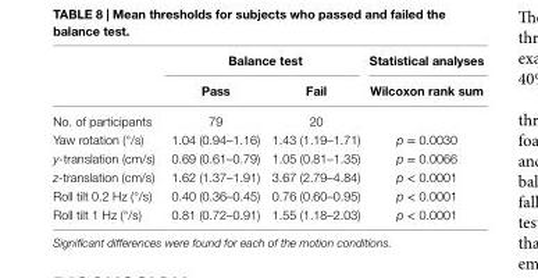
<table><thead><tr><td rowspan="2"></td><td colspan="2">Balance test</td><td rowspan="2">statistical analyses Wilcoxon rank sum</td></tr><tr><td>Pass</td><td>Fail</td></tr></thead><tbody><tr><td>No. of participants</td><td>79</td><td>20</td><td></td></tr><tr><td>Yaw rotation (°/s)</td><td>1.04 (0.94–1.16)</td><td>1.43 (1.19–1.71)</td><td>p = 0.0030</td></tr><tr><td>y-translation (cm/s)</td><td>0.69 (0.61–0.79)</td><td>1.05 (0.81–1.35)</td><td>p = 0.0066</td></tr><tr><td>z-translation (cm/s)</td><td>1.62 (1.37–1.91)</td><td>3.67 (2.79–4.84)</td><td>p &lt; 0.0001</td></tr><tr><td>Roll tilt 0.2 Hz (°/s)</td><td>0.40 (0.36–0.45)</td><td>0.76 (0.60–0.95)</td><td>p &lt; 0.0001</td></tr><tr><td>Roll tilt 1 Hz (°/s)</td><td>0.81 (0.72–0.91)</td><td>1.55 (1.18–2.03)</td><td>p &lt; 0.0001</td></tr></tbody></table>